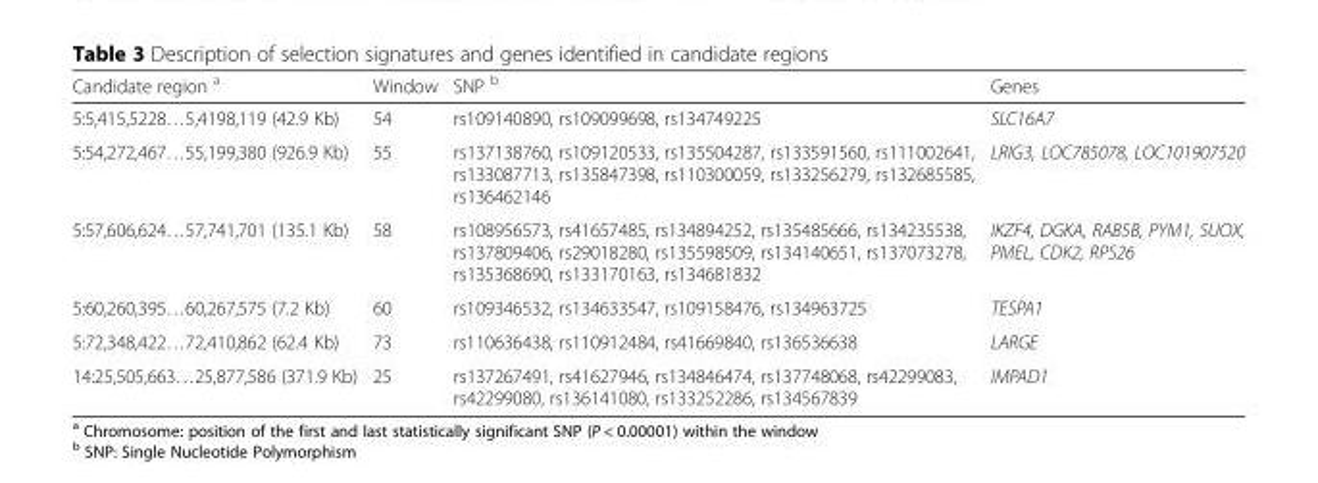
<table><thead><tr><td>Candidate region <sup>a</sup></td><td>Window</td><td>SNP <sup>b</sup></td><td>Genes</td></tr></thead><tbody><tr><td>5:5,415,5228…5,4198,119 (42.9 Kb)</td><td>54</td><td>rs109140890, rs109099698, rs134749225</td><td>SLC16A7</td></tr><tr><td>5:54,272,467…55,199,380 (926.9 Kb)</td><td>55</td><td>rs137138760, rs109120533, rs135504287, rs133591560, rs111002641, rs133087713, rs135847398, rs110300059, rs133256279, rs132685585, rs136462146</td><td>LRIG3, LOC785078, LOC101907520</td></tr><tr><td>5:57,606,624…57,741,701 (135.1 Kb)</td><td>58</td><td>rs108956573, rs41657485, rs134894252, rs135485666, rs134235538, rs137809406, rs29018280, rs135598509, rs134140651, rs137073278, rs135368690, rs133170163, rs134681832</td><td>IKZF4, DGKA, RAB5B, PYM1, SUOX, PMEL, CDK2, RPS26</td></tr><tr><td>5:60,260,395…60,267,575 (7.2 Kb)</td><td>60</td><td>rs109346532, rs134633547, rs109158476, rs134963725</td><td>TESPA1</td></tr><tr><td>5:72,348,422…72,410,862 (62.4 Kb)</td><td>73</td><td>rs110636438, rs110912484, rs41669840, rs136536638</td><td>LARGE</td></tr><tr><td>14:25,505,663…25,877,586 (371.9 Kb)</td><td>25</td><td>rs137267491, rs41627946, rs134846474, rs137748068, rs42299083, rs42299080, rs136141080, rs133252286, rs134567839</td><td>IMPAD1</td></tr></tbody></table>